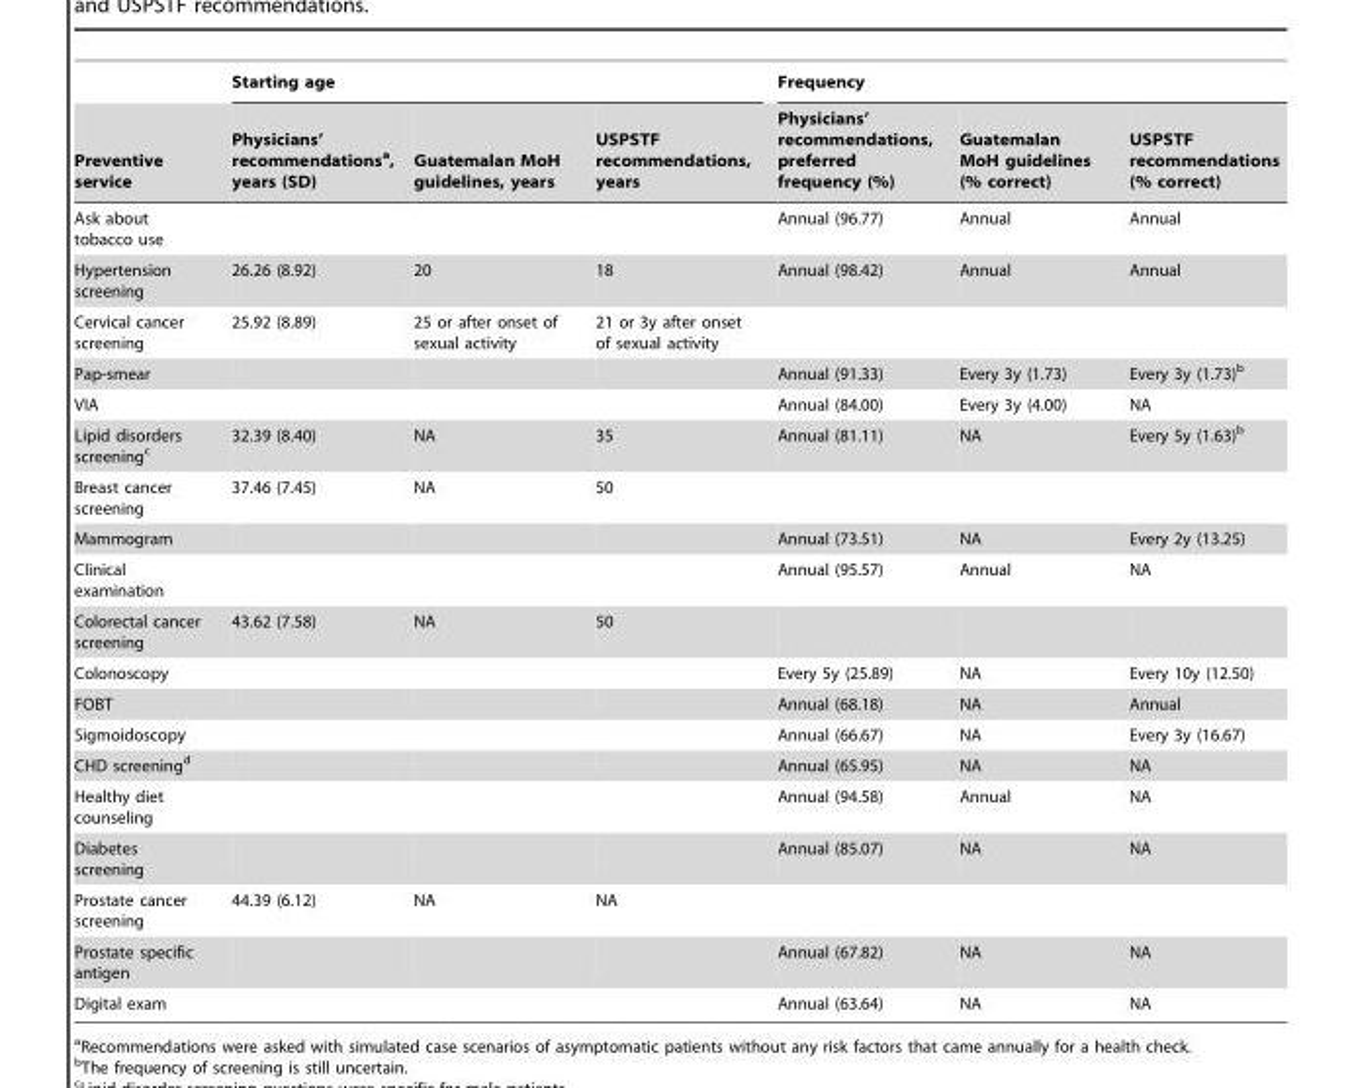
<table><thead><tr><td rowspan="2">Preventive service</td><td colspan="3">Starting age</td><td colspan="3">Frequency</td></tr><tr><td>Physicians’ recommendations<sup>a</sup>, years (SD)</td><td>Guatemalan MoH guidelines, years</td><td>USPSTF recommendations, years</td><td>Physicians’ recommendations, preferred frequency (%)</td><td>Guatemalan MoH guidelines (% correct)</td><td>USPSTF recommendations (% correct)</td></tr></thead><tbody><tr><td>Ask about tobacco use</td><td></td><td></td><td></td><td>Annual (96.77)</td><td>Annual</td><td>Annual</td></tr><tr><td>Hypertension screening</td><td>26.26 (8.92)</td><td>20</td><td>18</td><td>Annual (98.42)</td><td>Annual</td><td>Annual</td></tr><tr><td>Cervical cancer screening</td><td>25.92 (8.89)</td><td>25 or after onset of sexual activity</td><td>21 or 3y after onset of sexual activity</td><td></td><td></td><td></td></tr><tr><td>Pap-smear</td><td></td><td></td><td></td><td>Annual (91.33)</td><td>Every 3y (1.73)</td><td>Every 3y (1.73)<sup>b</sup></td></tr><tr><td>VIA</td><td></td><td></td><td></td><td>Annual (84.00)</td><td>Every 3y (4.00)</td><td>NA</td></tr><tr><td>Lipid disorders screening<sup>c</sup></td><td>32.39 (8.40)</td><td>NA</td><td>35</td><td>Annual (81.11)</td><td>NA</td><td>Every 5y (1.63)<sup>b</sup></td></tr><tr><td>Breast cancer screening</td><td>37.46 (7.45)</td><td>NA</td><td>50</td><td></td><td></td><td></td></tr><tr><td>Mammogram</td><td></td><td></td><td></td><td>Annual (73.51)</td><td>NA</td><td>Every 2y (13.25)</td></tr><tr><td>Clinical examination</td><td></td><td></td><td></td><td>Annual (95.57)</td><td>Annual</td><td>NA</td></tr><tr><td>Colorectal cancer screening</td><td>43.62 (7.58)</td><td>NA</td><td>50</td><td></td><td></td><td></td></tr><tr><td>Colonoscopy</td><td></td><td></td><td></td><td>Every 5y (25.89)</td><td>NA</td><td>Every 10y (12.50)</td></tr><tr><td>FOBT</td><td></td><td></td><td></td><td>Annual (68.18)</td><td>NA</td><td>Annual</td></tr><tr><td>Sigmoidoscopy</td><td></td><td></td><td></td><td>Annual (66.67)</td><td>NA</td><td>Every 3y (16.67)</td></tr><tr><td>CHD screening<sup>d</sup></td><td></td><td></td><td></td><td>Annual (65.95)</td><td>NA</td><td>NA</td></tr><tr><td>Healthy diet counseling</td><td></td><td></td><td></td><td>Annual (94.58)</td><td>Annual</td><td>NA</td></tr><tr><td>Diabetes screening</td><td></td><td></td><td></td><td>Annual (85.07)</td><td>NA</td><td>NA</td></tr><tr><td>Prostate cancer screening</td><td>44.39 (6.12)</td><td>NA</td><td>NA</td><td></td><td></td><td></td></tr><tr><td>Prostate specific antigen</td><td></td><td></td><td></td><td>Annual (67.82)</td><td>NA</td><td>NA</td></tr><tr><td>Digital exam</td><td></td><td></td><td></td><td>Annual (63.64)</td><td>NA</td><td>NA</td></tr></tbody></table>